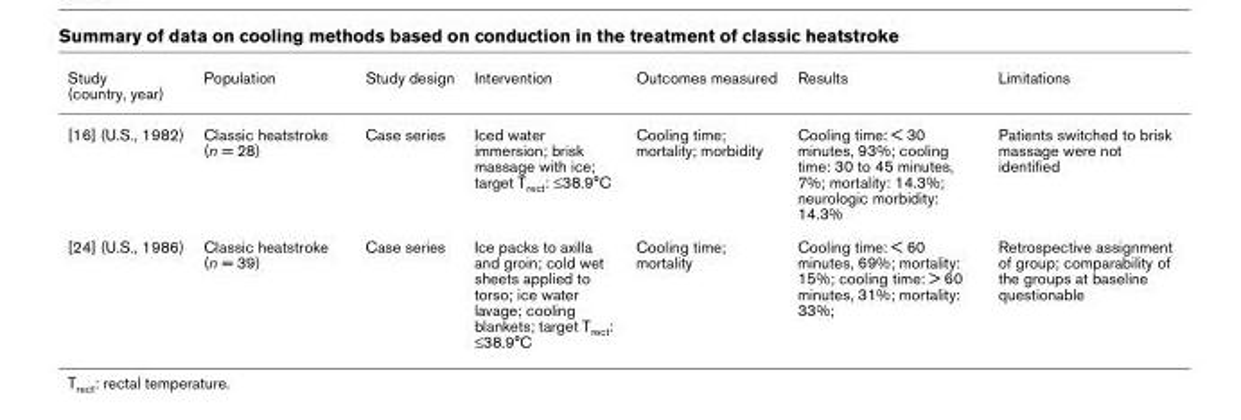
<table><thead><tr><td>Study (country, year)</td><td>Population</td><td>Study design</td><td>Intervention</td><td>Outcomes measured</td><td>Results</td><td>Limitations</td></tr></thead><tbody><tr><td>[16] (U.S., 1982)</td><td>Classic heatstroke (n = 28)</td><td>Case series</td><td>Iced water immersion; brisk massage with ice; target T<sub>rect</sub>: ≤38.9°C</td><td>Cooling time; mortality; morbidity</td><td>Cooling time: &lt; 30 minutes, 93%; cooling time: 30 to 45 minutes, 7%; mortality: 14.3%; neurologic morbidity: 14.3%</td><td>Patients switched to brisk massage were not identified</td></tr><tr><td>[24] (U.S., 1986)</td><td>Classic heatstroke (n = 39)</td><td>Case series</td><td>Ice packs to axilla and groin; cold wet sheets applied to torso; ice water lavage; cooling blankets; target T<sub>rect</sub>: ≤38.9°C</td><td>Cooling time; mortality</td><td>Cooling time: &lt; 60 minutes, 69%; mortality: 15%; cooling time: &gt; 60 minutes, 31%; mortality: 33%;</td><td>Retrospective assignment of group; comparability of the groups at baseline questionable</td></tr></tbody></table>